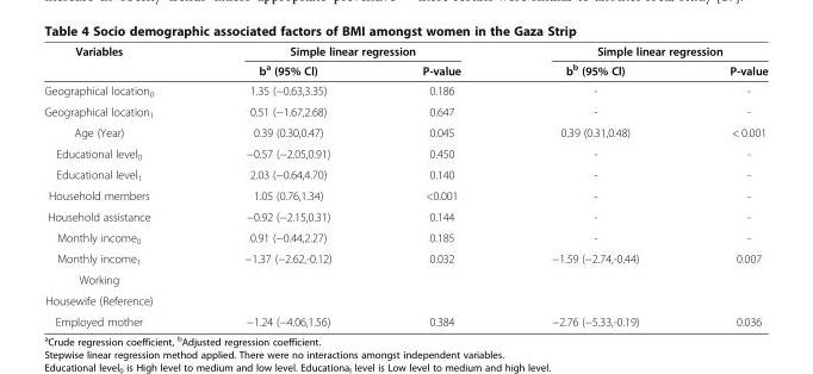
<table><thead><tr><td rowspan="2">Variables</td><td colspan="2">Simple linear regression</td><td colspan="2">Simple linear regression</td></tr><tr><td>b<sup>a</sup> (95% Cl)</td><td>P-value</td><td>b<sup>b</sup> (95% Cl)</td><td>P-value</td></tr></thead><tbody><tr><td>Geographical location<sub>0</sub></td><td>1.35 (−0.63,3.35)</td><td>0.186</td><td>-</td><td>-</td></tr><tr><td>Geographical location<sub>1</sub></td><td>0.51 (−1.67,2.68)</td><td>0.647</td><td>-</td><td>-</td></tr><tr><td>Age (Year)</td><td>0.39 (0.30,0.47)</td><td>0.045</td><td>0.39 (0.31,0.48)</td><td>&lt; 0.001</td></tr><tr><td>Educational level<sub>0</sub></td><td>−0.57 (−2.05,0.91)</td><td>0.450</td><td>-</td><td>-</td></tr><tr><td>Educational level<sub>1</sub></td><td>2.03 (−0.64,4.70)</td><td>0.140</td><td>-</td><td>-</td></tr><tr><td>Household members</td><td>1.05 (0.76,1.34)</td><td>&lt;0.001</td><td>-</td><td>-</td></tr><tr><td>Household assistance</td><td>−0.92 (−2.15,0.31)</td><td>0.144</td><td>-</td><td>-</td></tr><tr><td>Monthly income<sub>0</sub></td><td>0.91 (−0.44,2.27)</td><td>0.185</td><td>-</td><td>-</td></tr><tr><td>Monthly income<sub>1</sub></td><td>−1.37 (−2.62,-0.12)</td><td>0.032</td><td>−1.59 (−2.74,-0.44)</td><td>0.007</td></tr><tr><td colspan="5">Working</td></tr><tr><td colspan="5">Housewife (Reference)</td></tr><tr><td>Employed mother</td><td>−1.24 (−4.06,1.56)</td><td>0.384</td><td>−2.76 (−5.33,-0.19)</td><td>0.036</td></tr></tbody></table>